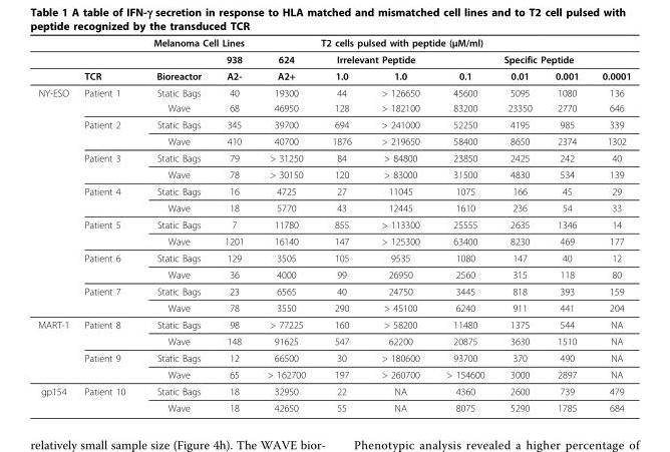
<table><thead><tr><td rowspan="3"></td><td colspan="4">Melanoma Cell Lines</td><td colspan="6">T2 cells pulsed with peptide (μM/ml)</td></tr><tr><td rowspan="2">TCR</td><td rowspan="2">Bioreactor</td><td rowspan="2">938 A2-</td><td rowspan="2">624 A2+</td><td colspan="2">Irrelevant Peptide</td><td colspan="4">Specific Peptide</td></tr><tr><td>1.0</td><td>1.0</td><td>0.1</td><td>0.01</td><td>0.001</td><td>0.0001</td></tr></thead><tbody><tr><td rowspan="14">NY-ESO</td><td>Patient 1</td><td>Static Bags</td><td>40</td><td>19300</td><td>44</td><td>&gt; 126650</td><td>45600</td><td>5095</td><td>1080</td><td>136</td></tr><tr><td></td><td>Wave</td><td>68</td><td>46950</td><td>128</td><td>&gt; 182100</td><td>83200</td><td>23350</td><td>2770</td><td>646</td></tr><tr><td>Patient 2</td><td>Static Bags</td><td>345</td><td>39700</td><td>694</td><td>&gt; 241000</td><td>52250</td><td>4195</td><td>985</td><td>339</td></tr><tr><td></td><td>Wave</td><td>410</td><td>40700</td><td>1876</td><td>&gt; 219650</td><td>58400</td><td>8650</td><td>2374</td><td>1302</td></tr><tr><td>Patient 3</td><td>Static Bags</td><td>79</td><td>&gt; 31250</td><td>84</td><td>&gt; 84800</td><td>23850</td><td>2425</td><td>242</td><td>40</td></tr><tr><td></td><td>Wave</td><td>78</td><td>&gt; 30150</td><td>120</td><td>&gt; 83000</td><td>31500</td><td>4830</td><td>534</td><td>139</td></tr><tr><td>Patient 4</td><td>Static Bags</td><td>16</td><td>4725</td><td>27</td><td>11045</td><td>1075</td><td>166</td><td>45</td><td>29</td></tr><tr><td></td><td>Wave</td><td>18</td><td>5770</td><td>43</td><td>12445</td><td>1610</td><td>236</td><td>54</td><td>33</td></tr><tr><td>Patient 5</td><td>Static Bags</td><td>7</td><td>11780</td><td>855</td><td>&gt; 113300</td><td>25555</td><td>2635</td><td>1346</td><td>14</td></tr><tr><td></td><td>Wave</td><td>1201</td><td>16140</td><td>147</td><td>&gt; 125300</td><td>63400</td><td>8230</td><td>469</td><td>177</td></tr><tr><td>Patient 6</td><td>Static Bags</td><td>129</td><td>3505</td><td>105</td><td>9535</td><td>1080</td><td>147</td><td>40</td><td>12</td></tr><tr><td></td><td>Wave</td><td>36</td><td>4000</td><td>99</td><td>26950</td><td>2560</td><td>315</td><td>118</td><td>80</td></tr><tr><td>Patient 7</td><td>Static Bags</td><td>23</td><td>6565</td><td>40</td><td>24750</td><td>3445</td><td>818</td><td>393</td><td>159</td></tr><tr><td></td><td>Wave</td><td>78</td><td>3550</td><td>290</td><td>&gt; 45100</td><td>6240</td><td>911</td><td>441</td><td>204</td></tr><tr><td rowspan="4">MART-1</td><td>Patient 8</td><td>Static Bags</td><td>98</td><td>&gt; 77225</td><td>160</td><td>&gt; 58200</td><td>11480</td><td>1375</td><td>544</td><td>NA</td></tr><tr><td></td><td>Wave</td><td>148</td><td>91625</td><td>547</td><td>62200</td><td>20875</td><td>3630</td><td>1510</td><td>NA</td></tr><tr><td>Patient 9</td><td>Static Bags</td><td>12</td><td>66500</td><td>30</td><td>&gt; 180600</td><td>93700</td><td>370</td><td>490</td><td>NA</td></tr><tr><td></td><td>Wave</td><td>65</td><td>&gt; 162700</td><td>197</td><td>&gt; 260700</td><td>&gt; 154600</td><td>3000</td><td>2897</td><td>NA</td></tr><tr><td rowspan="2">gp154</td><td>Patient 10</td><td>Static Bags</td><td>18</td><td>32950</td><td>22</td><td>NA</td><td>4360</td><td>2600</td><td>739</td><td>479</td></tr><tr><td></td><td>Wave</td><td>18</td><td>42650</td><td>55</td><td>NA</td><td>8075</td><td>5290</td><td>1785</td><td>684</td></tr></tbody></table>